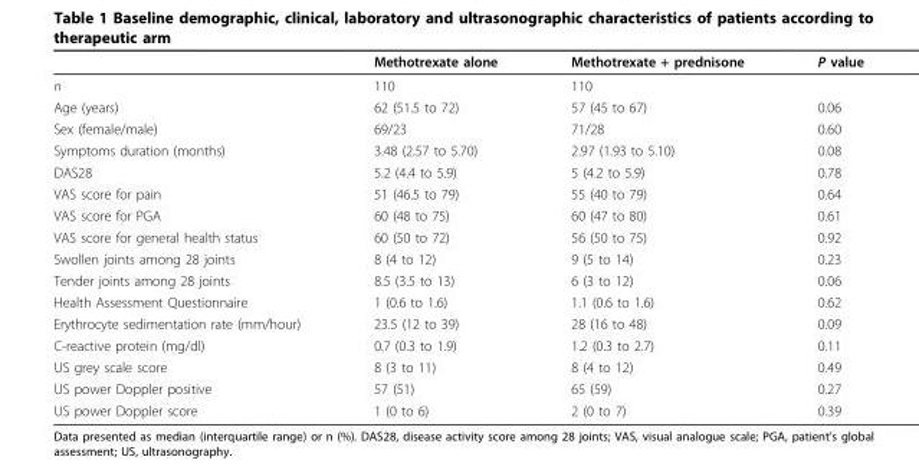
<table><thead><tr><td></td><td>Methotrexate alone</td><td>Methotrexate + prednisone</td><td>P value</td></tr></thead><tbody><tr><td>n</td><td>110</td><td>110</td><td></td></tr><tr><td>Age (years)</td><td>62 (51.5 to 72)</td><td>57 (45 to 67)</td><td>0.06</td></tr><tr><td>Sex (female/male)</td><td>69/23</td><td>71/28</td><td>0.60</td></tr><tr><td>Symptoms duration (months)</td><td>3.48 (2.57 to 5.70)</td><td>2.97 (1.93 to 5.10)</td><td>0.08</td></tr><tr><td>DAS28</td><td>5.2 (4.4 to 5.9)</td><td>5 (4.2 to 5.9)</td><td>0.78</td></tr><tr><td>VAS score for pain</td><td>51 (46.5 to 79)</td><td>55 (40 to 79)</td><td>0.64</td></tr><tr><td>VAS score for PGA</td><td>60 (48 to 75)</td><td>60 (47 to 80)</td><td>0.61</td></tr><tr><td>VAS score for general health status</td><td>60 (50 to 72)</td><td>56 (50 to 75)</td><td>0.92</td></tr><tr><td>Swollen joints among 28 joints</td><td>8 (4 to 12)</td><td>9 (5 to 14)</td><td>0.23</td></tr><tr><td>Tender joints among 28 joints</td><td>8.5 (3.5 to 13)</td><td>6 (3 to 12)</td><td>0.06</td></tr><tr><td>Health Assessment Questionnaire</td><td>1 (0.6 to 1.6)</td><td>1.1 (0.6 to 1.6)</td><td>0.62</td></tr><tr><td>Erythrocyte sedimentation rate (mm/hour)</td><td>23.5 (12 to 39)</td><td>28 (16 to 48)</td><td>0.09</td></tr><tr><td>C-reactive protein (mg/dl)</td><td>0.7 (0.3 to 1.9)</td><td>1.2 (0.3 to 2.7)</td><td>0.11</td></tr><tr><td>US grey scale score</td><td>8 (3 to 11)</td><td>8 (4 to 12)</td><td>0.49</td></tr><tr><td>US power Doppler positive</td><td>57 (51)</td><td>65 (59)</td><td>0.27</td></tr><tr><td>US power Doppler score</td><td>1 (0 to 6)</td><td>2 (0 to 7)</td><td>0.39</td></tr></tbody></table>